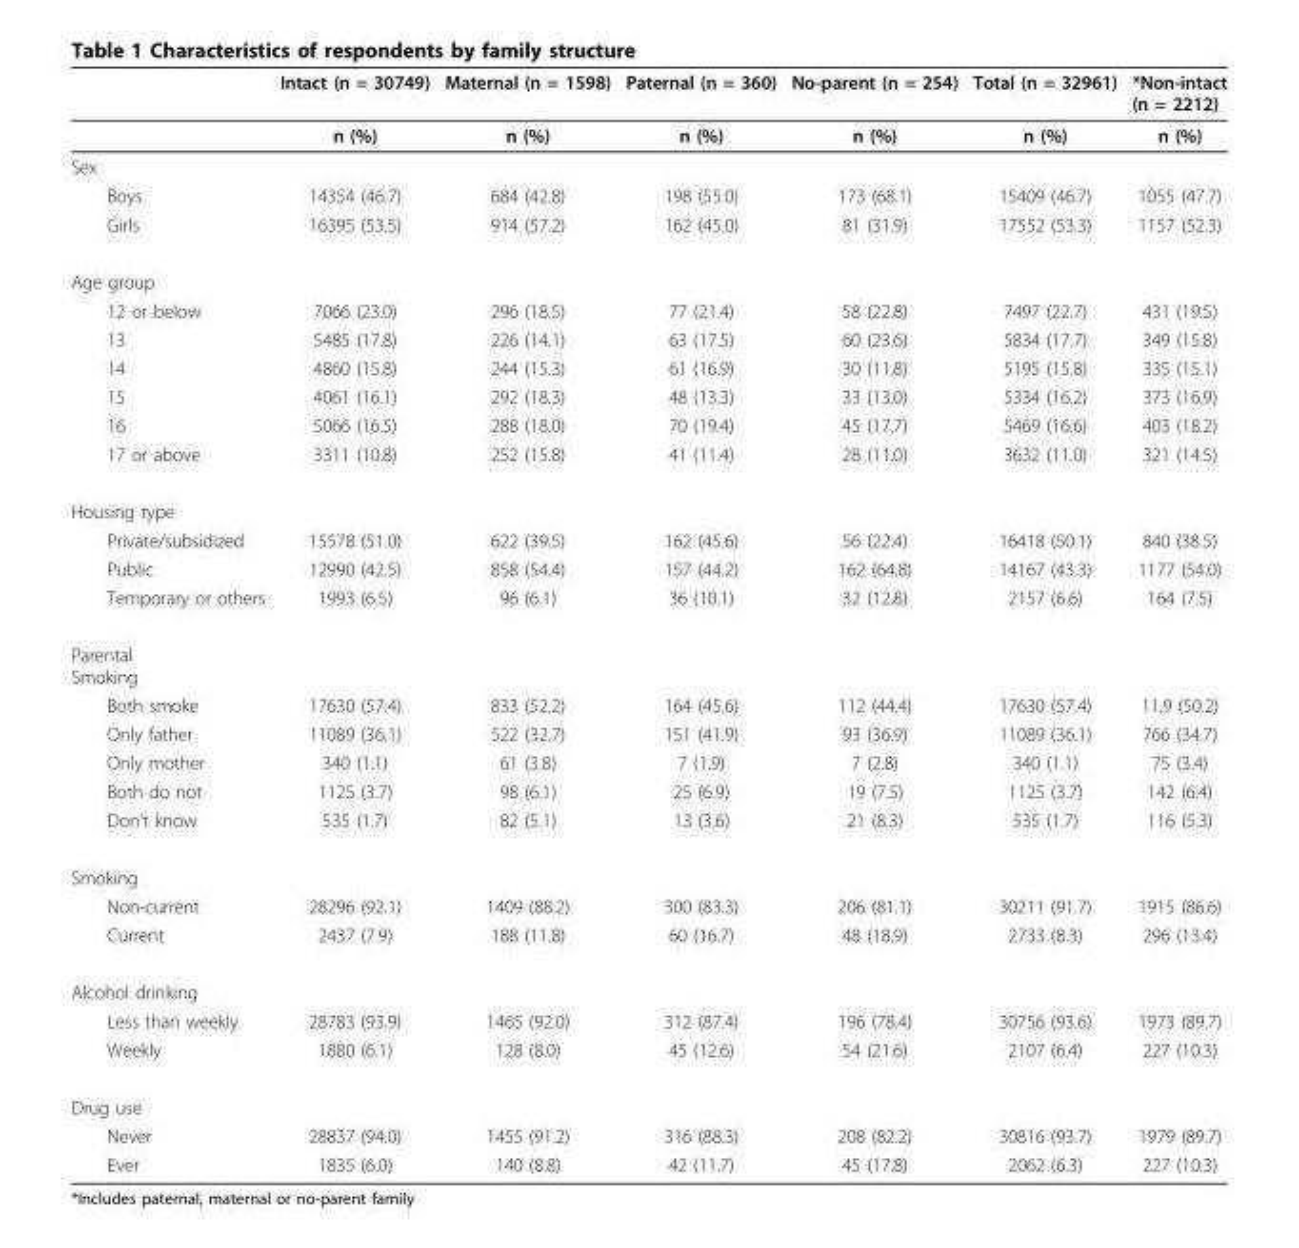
<table><thead><tr><td></td><td>Intact (n = 30749)</td><td>Maternal (n = 1598)</td><td>Paternal (n = 360)</td><td>No-parent (n = 254)</td><td>Total (n = 32961)</td><td>*Non-intact (n = 2212)</td></tr></thead><tbody><tr><td></td><td>n (%)</td><td>n (%)</td><td>n (%)</td><td>n (%)</td><td>n (%)</td><td>n (%)</td></tr><tr><td colspan="7">Sex</td></tr><tr><td>Boys</td><td>14354 (46.7)</td><td>684 (42.8)</td><td>198 (55.0)</td><td>173 (68.1)</td><td>15409 (46.7)</td><td>1055 (47.7)</td></tr><tr><td>Girls</td><td>16395 (53.5)</td><td>914 (57.2)</td><td>162 (45.0)</td><td>81 (31.9)</td><td>17552 (53.3)</td><td>1157 (52.3)</td></tr><tr><td colspan="7">Age group</td></tr><tr><td>12 or below</td><td>7066 (23.0)</td><td>296 (18.5)</td><td>77 (21.4)</td><td>58 (22.8)</td><td>7497 (22.7)</td><td>431 (19.5)</td></tr><tr><td>13</td><td>5485 (17.8)</td><td>226 (14.1)</td><td>63 (17.5)</td><td>60 (23.6)</td><td>5834 (17.7)</td><td>349 (15.8)</td></tr><tr><td>14</td><td>4860 (15.8)</td><td>244 (15.3)</td><td>61 (16.9)</td><td>30 (11.8)</td><td>5195 (15.8)</td><td>335 (15.1)</td></tr><tr><td>15</td><td>4061 (16.1)</td><td>292 (18.3)</td><td>48 (13.3)</td><td>33 (13.0)</td><td>5334 (16.2)</td><td>373 (16.9)</td></tr><tr><td>16</td><td>5066 (16.5)</td><td>288 (18.0)</td><td>70 (19.4)</td><td>45 (17.7)</td><td>5469 (16.6)</td><td>403 (18.2)</td></tr><tr><td>17 or above</td><td>3311 (10.8)</td><td>252 (15.8)</td><td>41 (11.4)</td><td>28 (11.0)</td><td>3632 (11.0)</td><td>321 (14.5)</td></tr><tr><td colspan="7">Housing type</td></tr><tr><td>Private/subsidized</td><td>15578 (51.0)</td><td>622 (39.5)</td><td>162 (45.6)</td><td>56 (22.4)</td><td>16418 (50.1)</td><td>840 (38.5)</td></tr><tr><td>Public</td><td>12990 (42.5)</td><td>858 (54.4)</td><td>157 (44.2)</td><td>162 (64.8)</td><td>14167 (43.3)</td><td>1177 (54.0)</td></tr><tr><td>Temporary or others</td><td>1993 (6.5)</td><td>96 (6.1)</td><td>36 (10.1)</td><td>32 (12.8)</td><td>2157 (6.6)</td><td>164 (7.5)</td></tr><tr><td colspan="7">Parental Smoking</td></tr><tr><td>Both smoke</td><td>17630 (57.4)</td><td>833 (52.2)</td><td>164 (45.6)</td><td>112 (44.4)</td><td>17630 (57.4)</td><td>11.9 (50.2)</td></tr><tr><td>Only father</td><td>11089 (36.1)</td><td>522 (32.7)</td><td>151 (41.9)</td><td>93 (36.9)</td><td>11089 (36.1)</td><td>766 (34.7)</td></tr><tr><td>Only mother</td><td>340 (1.1)</td><td>61 (3.8)</td><td>7 (1.9)</td><td>7 (2.8)</td><td>340 (1.1)</td><td>75 (3.4)</td></tr><tr><td>Both do not</td><td>1125 (3.7)</td><td>98 (6.1)</td><td>25 (6.9)</td><td>19 (7.5)</td><td>1125 (3.7)</td><td>142 (6.4)</td></tr><tr><td>Don’t know</td><td>535 (1.7)</td><td>82 (5.1)</td><td>13 (3.6)</td><td>21 (8.3)</td><td>535 (1.7)</td><td>116 (5.3)</td></tr><tr><td colspan="7">Smoking</td></tr><tr><td>Non-current</td><td>28296 (92.1)</td><td>1409 (88.2)</td><td>300 (83.3)</td><td>206 (81.1)</td><td>30211 (91.7)</td><td>1915 (86.6)</td></tr><tr><td>Current</td><td>2437 (7.9)</td><td>188 (11.8)</td><td>60 (16.7)</td><td>48 (18.9)</td><td>2733 (8.3)</td><td>296 (13.4)</td></tr><tr><td colspan="7">Alcohol drinking</td></tr><tr><td>Less than weekly</td><td>28783 (93.9)</td><td>1465 (92.0)</td><td>312 (87.4)</td><td>196 (78.4)</td><td>30756 (93.6)</td><td>1973 (89.7)</td></tr><tr><td>Weekly</td><td>1880 (6.1)</td><td>128 (8.0)</td><td>45 (12.6)</td><td>54 (21.6)</td><td>2107 (6.4)</td><td>227 (10.3)</td></tr><tr><td colspan="7">Drug use</td></tr><tr><td>Never</td><td>28837 (94.0)</td><td>1455 (91.2)</td><td>316 (88.3)</td><td>208 (82.2)</td><td>30816 (93.7)</td><td>1979 (89.7)</td></tr><tr><td>Ever</td><td>1835 (6.0)</td><td>140 (8.8)</td><td>42 (11.7)</td><td>45 (17.8)</td><td>2062 (6.3)</td><td>227 (10.3)</td></tr></tbody></table>